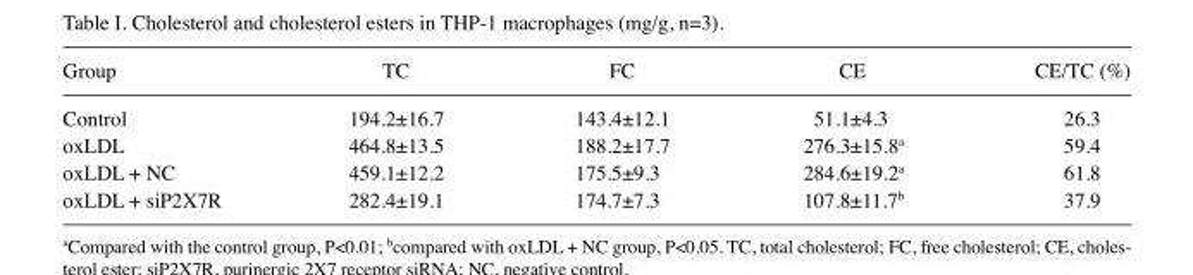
<table><thead><tr><td>Group</td><td>TC</td><td>FC</td><td>CE</td><td>CE/TC (%)</td></tr></thead><tbody><tr><td>Control</td><td>194.2±16.7</td><td>143.4±12.1</td><td>51.1±4.3</td><td>26.3</td></tr><tr><td>oxLDL</td><td>464.8±13.5</td><td>188.2±17.7</td><td>276.3±15.8<sup>a</sup></td><td>59.4</td></tr><tr><td>oxLDL + NC</td><td>459.1±12.2</td><td>175.5±9.3</td><td>284.6±19.2<sup>a</sup></td><td>61.8</td></tr><tr><td>oxLDL + siP2X7R</td><td>282.4±19.1</td><td>174.7±7.3</td><td>107.8±11.7<sup>b</sup></td><td>37.9</td></tr></tbody></table>